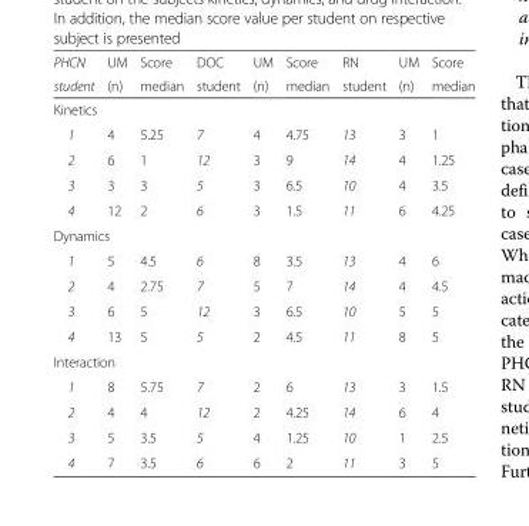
<table><thead><tr><td rowspan="2">PHCN student</td><td rowspan="2">UM (n)</td><td rowspan="2">Score median</td><td rowspan="2">DOC student</td><td rowspan="2">UM (n)</td><td rowspan="2">Score median</td><td rowspan="2">RN student</td><td rowspan="2">UM (n)</td><td rowspan="2">Score median</td></tr><tr></tr></thead><tbody><tr><td colspan="9">Kinetics</td></tr><tr><td>1</td><td>4</td><td>5.25</td><td>7</td><td>4</td><td>4.75</td><td>13</td><td>3</td><td>1</td></tr><tr><td>2</td><td>6</td><td>1</td><td>12</td><td>3</td><td>9</td><td>14</td><td>4</td><td>1.25</td></tr><tr><td>3</td><td>3</td><td>3</td><td>5</td><td>3</td><td>6.5</td><td>10</td><td>4</td><td>3.5</td></tr><tr><td>4</td><td>12</td><td>2</td><td>6</td><td>3</td><td>1.5</td><td>11</td><td>6</td><td>4.25</td></tr><tr><td colspan="9">Dynamics</td></tr><tr><td>1</td><td>5</td><td>4.5</td><td>6</td><td>8</td><td>3.5</td><td>13</td><td>4</td><td>6</td></tr><tr><td>2</td><td>4</td><td>2.75</td><td>7</td><td>5</td><td>7</td><td>14</td><td>4</td><td>4.5</td></tr><tr><td>3</td><td>6</td><td>5</td><td>12</td><td>3</td><td>6.5</td><td>10</td><td>5</td><td>5</td></tr><tr><td>4</td><td>13</td><td>5</td><td>5</td><td>2</td><td>4.5</td><td>11</td><td>8</td><td>5</td></tr><tr><td colspan="9">Interaction</td></tr><tr><td>1</td><td>8</td><td>5.75</td><td>7</td><td>2</td><td>6</td><td>13</td><td>3</td><td>1.5</td></tr><tr><td>2</td><td>4</td><td>4</td><td>12</td><td>2</td><td>4.25</td><td>14</td><td>6</td><td>4</td></tr><tr><td>3</td><td>5</td><td>3.5</td><td>5</td><td>4</td><td>1.25</td><td>10</td><td>1</td><td>2.5</td></tr><tr><td>4</td><td>7</td><td>3.5</td><td>6</td><td>6</td><td>2</td><td>11</td><td>3</td><td>5</td></tr></tbody></table>